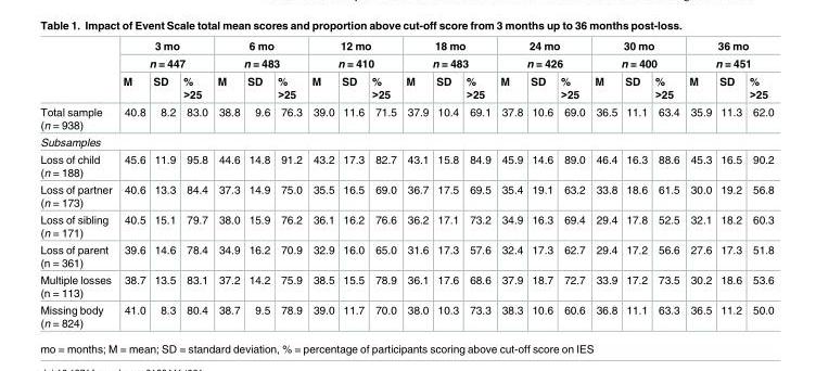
<table><thead><tr><td rowspan="3"></td><td rowspan="2" colspan="3">3 mo n = 447</td><td rowspan="2" colspan="3">6 mo n = 483</td><td rowspan="2" colspan="3">12 mo n = 410</td><td rowspan="2" colspan="3">18 mo n = 483</td><td rowspan="2" colspan="3">24 mo n = 426</td><td rowspan="2" colspan="3">30 mo n = 400</td><td rowspan="2" colspan="3">36 mo n = 451</td></tr><tr></tr><tr><td>M</td><td>SD</td><td>% &gt;25</td><td>M</td><td>SD</td><td>% &gt;25</td><td>M</td><td>SD</td><td>% &gt;25</td><td>M</td><td>SD</td><td>% &gt;25</td><td>M</td><td>SD</td><td>% &gt;25</td><td>M</td><td>SD</td><td>% &gt;25</td><td>M</td><td>SD</td><td>% &gt;25</td></tr></thead><tbody><tr><td>Total sample (n = 938)</td><td>40.8</td><td>8.2</td><td>83.0</td><td>38.8</td><td>9.6</td><td>76.3</td><td>39.0</td><td>11.6</td><td>71.5</td><td>37.9</td><td>10.4</td><td>69.1</td><td>37.8</td><td>10.6</td><td>69.0</td><td>36.5</td><td>11.1</td><td>63.4</td><td>35.9</td><td>11.3</td><td>62.0</td></tr><tr><td colspan="22">Subsamples</td></tr><tr><td>Loss of child (n = 188)</td><td>45.6</td><td>11.9</td><td>95.8</td><td>44.6</td><td>14.8</td><td>91.2</td><td>43.2</td><td>17.3</td><td>82.7</td><td>43.1</td><td>15.8</td><td>84.9</td><td>45.9</td><td>14.6</td><td>89.0</td><td>46.4</td><td>16.3</td><td>88.6</td><td>45.3</td><td>16.5</td><td>90.2</td></tr><tr><td>Loss of partner (n = 173)</td><td>40.6</td><td>13.3</td><td>84.4</td><td>37.3</td><td>14.9</td><td>75.0</td><td>35.5</td><td>16.5</td><td>69.0</td><td>36.7</td><td>17.5</td><td>69.5</td><td>35.4</td><td>19.1</td><td>63.2</td><td>33.8</td><td>18.6</td><td>61.5</td><td>30.0</td><td>19.2</td><td>56.8</td></tr><tr><td>Loss of sibling (n = 171)</td><td>40.5</td><td>15.1</td><td>79.7</td><td>38.0</td><td>15.9</td><td>76.2</td><td>36.1</td><td>16.2</td><td>76.6</td><td>36.2</td><td>17.1</td><td>73.2</td><td>34.9</td><td>16.3</td><td>69.4</td><td>29.4</td><td>17.8</td><td>52.5</td><td>32.1</td><td>18.2</td><td>60.3</td></tr><tr><td>Loss of parent (n = 361)</td><td>39.6</td><td>14.6</td><td>78.4</td><td>34.9</td><td>16.2</td><td>70.9</td><td>32.9</td><td>16.0</td><td>65.0</td><td>31.6</td><td>17.3</td><td>57.6</td><td>32.4</td><td>17.3</td><td>62.7</td><td>29.4</td><td>17.2</td><td>56.6</td><td>27.6</td><td>17.3</td><td>51.8</td></tr><tr><td>Multiple losses (n = 113)</td><td>38.7</td><td>13.5</td><td>83.1</td><td>37.2</td><td>14.2</td><td>75.9</td><td>38.5</td><td>15.5</td><td>78.9</td><td>36.1</td><td>17.6</td><td>68.6</td><td>37.9</td><td>18.7</td><td>72.7</td><td>33.9</td><td>17.2</td><td>73.5</td><td>30.2</td><td>18.6</td><td>53.6</td></tr><tr><td>Missing body (n = 824)</td><td>41.0</td><td>8.3</td><td>80.4</td><td>38.7</td><td>9.5</td><td>78.9</td><td>39.0</td><td>11.7</td><td>70.0</td><td>38.0</td><td>10.3</td><td>73.3</td><td>38.3</td><td>10.6</td><td>60.6</td><td>36.8</td><td>11.1</td><td>63.3</td><td>36.5</td><td>11.2</td><td>50.0</td></tr></tbody></table>